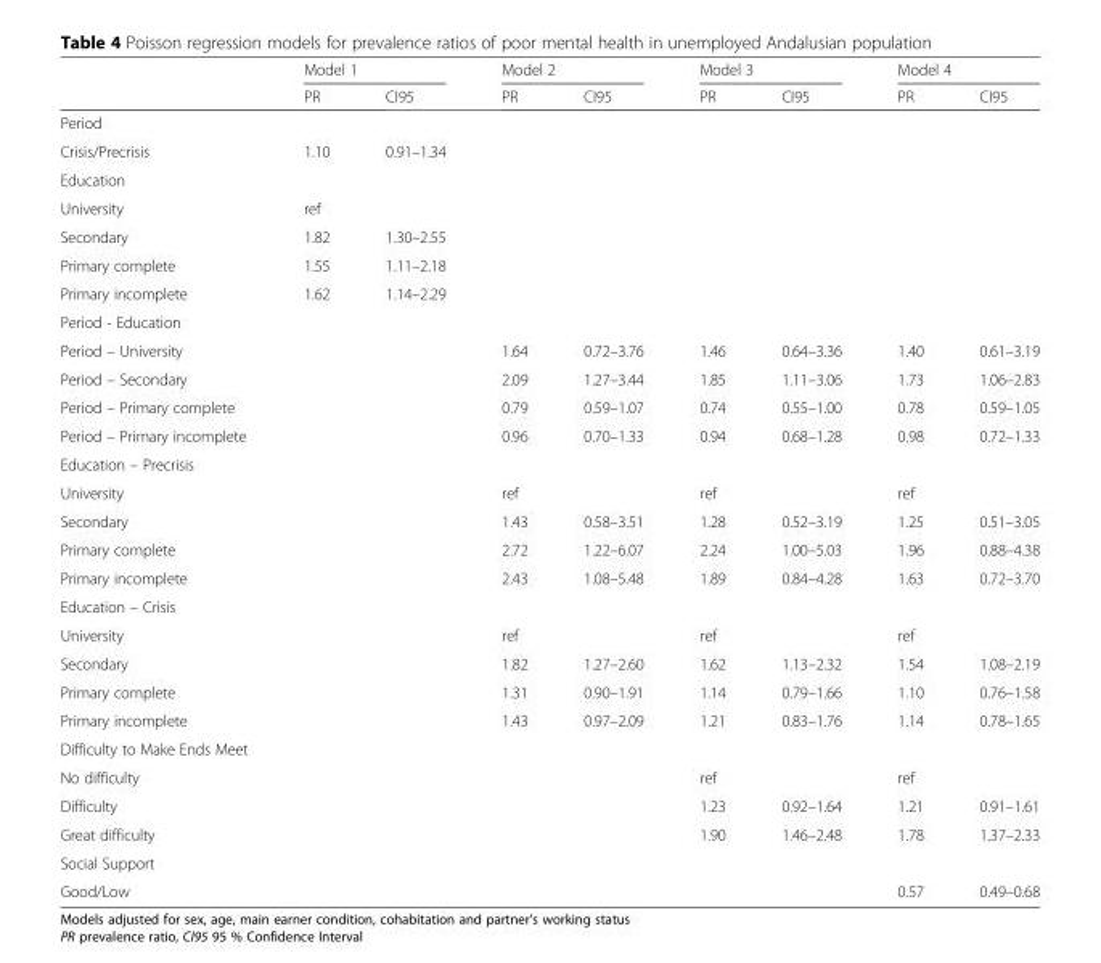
<table><thead><tr><td rowspan="2"></td><td colspan="2">Model 1</td><td colspan="2">Model 2</td><td colspan="2">Model 3</td><td colspan="2">Model 4</td></tr><tr><td>PR</td><td>CI95</td><td>PR</td><td>CI95</td><td>PR</td><td>CI95</td><td>PR</td><td>CI95</td></tr></thead><tbody><tr><td colspan="9">Period</td></tr><tr><td>Crisis/Precrisis</td><td>1.10</td><td>0.91–1.34</td><td></td><td></td><td></td><td></td><td></td><td></td></tr><tr><td colspan="9">Education</td></tr><tr><td>University</td><td>ref</td><td></td><td></td><td></td><td></td><td></td><td></td><td></td></tr><tr><td>Secondary</td><td>1.82</td><td>1.30–2.55</td><td></td><td></td><td></td><td></td><td></td><td></td></tr><tr><td>Primary complete</td><td>1.55</td><td>1.11–2.18</td><td></td><td></td><td></td><td></td><td></td><td></td></tr><tr><td>Primary incomplete</td><td>1.62</td><td>1.14–2.29</td><td></td><td></td><td></td><td></td><td></td><td></td></tr><tr><td colspan="9">Period - Education</td></tr><tr><td>Period – University</td><td></td><td></td><td>1.64</td><td>0.72–3.76</td><td>1.46</td><td>0.64–3.36</td><td>1.40</td><td>0.61–3.19</td></tr><tr><td>Period – Secondary</td><td></td><td></td><td>2.09</td><td>1.27–3.44</td><td>1.85</td><td>1.11–3.06</td><td>1.73</td><td>1.06–2.83</td></tr><tr><td>Period – Primary complete</td><td></td><td></td><td>0.79</td><td>0.59–1.07</td><td>0.74</td><td>0.55–1.00</td><td>0.78</td><td>0.59–1.05</td></tr><tr><td>Period – Primary incomplete</td><td></td><td></td><td>0.96</td><td>0.70–1.33</td><td>0.94</td><td>0.68–1.28</td><td>0.98</td><td>0.72–1.33</td></tr><tr><td colspan="9">Education – Precrisis</td></tr><tr><td>University</td><td></td><td></td><td>ref</td><td></td><td>ref</td><td></td><td>ref</td><td></td></tr><tr><td>Secondary</td><td></td><td></td><td>1.43</td><td>0.58–3.51</td><td>1.28</td><td>0.52–3.19</td><td>1.25</td><td>0.51–3.05</td></tr><tr><td>Primary complete</td><td></td><td></td><td>2.72</td><td>1.22–6.07</td><td>2.24</td><td>1.00–5.03</td><td>1.96</td><td>0.88–4.38</td></tr><tr><td>Primary incomplete</td><td></td><td></td><td>2.43</td><td>1.08–5.48</td><td>1.89</td><td>0.84–4.28</td><td>1.63</td><td>0.72–3.70</td></tr><tr><td colspan="9">Education – Crisis</td></tr><tr><td>University</td><td></td><td></td><td>ref</td><td></td><td>ref</td><td></td><td>ref</td><td></td></tr><tr><td>Secondary</td><td></td><td></td><td>1.82</td><td>1.27–2.60</td><td>1.62</td><td>1.13–2.32</td><td>1.54</td><td>1.08–2.19</td></tr><tr><td>Primary complete</td><td></td><td></td><td>1.31</td><td>0.90–1.91</td><td>1.14</td><td>0.79–1.66</td><td>1.10</td><td>0.76–1.58</td></tr><tr><td>Primary incomplete</td><td></td><td></td><td>1.43</td><td>0.97–2.09</td><td>1.21</td><td>0.83–1.76</td><td>1.14</td><td>0.78–1.65</td></tr><tr><td colspan="9">Difficulty to Make Ends Meet</td></tr><tr><td>No difficulty</td><td></td><td></td><td></td><td></td><td>ref</td><td></td><td>ref</td><td></td></tr><tr><td>Difficulty</td><td></td><td></td><td></td><td></td><td>1.23</td><td>0.92–1.64</td><td>1.21</td><td>0.91–1.61</td></tr><tr><td>Great difficulty</td><td></td><td></td><td></td><td></td><td>1.90</td><td>1.46–2.48</td><td>1.78</td><td>1.37–2.33</td></tr><tr><td colspan="9">Social Support</td></tr><tr><td>Good/Low</td><td></td><td></td><td></td><td></td><td></td><td></td><td>0.57</td><td>0.49–0.68</td></tr></tbody></table>